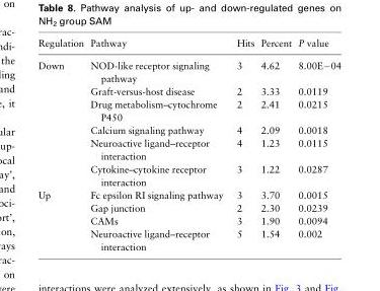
<table><thead><tr><td>Regulation</td><td>Pathway</td><td>Hits</td><td>Percent</td><td>P value</td></tr></thead><tbody><tr><td rowspan="6">Down</td><td>NOD-like receptor signaling pathway</td><td>3</td><td>4.62</td><td>8.00E−04</td></tr><tr><td>Graft-versus-host disease</td><td>2</td><td>3.33</td><td>0.0119</td></tr><tr><td>Drug metabolism–cytochrome P450</td><td>2</td><td>2.41</td><td>0.0215</td></tr><tr><td>Calcium signaling pathway</td><td>4</td><td>2.09</td><td>0.0018</td></tr><tr><td>Neuroactive ligand–receptor interaction</td><td>4</td><td>1.23</td><td>0.0115</td></tr><tr><td>Cytokine–cytokine receptor interaction</td><td>3</td><td>1.22</td><td>0.0287</td></tr><tr><td rowspan="4">Up</td><td>Fc epsilon RI signaling pathway</td><td>3</td><td>3.70</td><td>0.0015</td></tr><tr><td>Gap junction</td><td>2</td><td>2.30</td><td>0.0239</td></tr><tr><td>CAMs</td><td>3</td><td>1.90</td><td>0.0094</td></tr><tr><td>Neuroactive ligand–receptor interaction</td><td>5</td><td>1.54</td><td>0.002</td></tr></tbody></table>